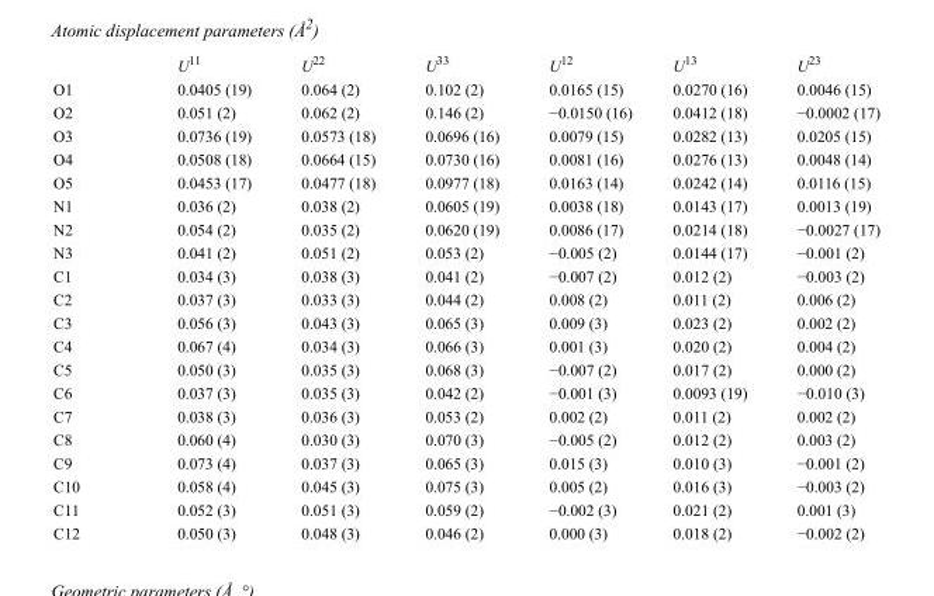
<table><thead><tr><td></td><td>U<sup>11</sup></td><td>U<sup>22</sup></td><td>U<sup>33</sup></td><td>U<sup>12</sup></td><td>U<sup>13</sup></td><td>U<sup>23</sup></td></tr></thead><tbody><tr><td>O1</td><td>0.0405 (19)</td><td>0.064 (2)</td><td>0.102 (2)</td><td>0.0165 (15)</td><td>0.0270 (16)</td><td>0.0046 (15)</td></tr><tr><td>O2</td><td>0.051 (2)</td><td>0.062 (2)</td><td>0.146 (2)</td><td>−0.0150 (16)</td><td>0.0412 (18)</td><td>−0.0002 (17)</td></tr><tr><td>O3</td><td>0.0736 (19)</td><td>0.0573 (18)</td><td>0.0696 (16)</td><td>0.0079 (15)</td><td>0.0282 (13)</td><td>0.0205 (15)</td></tr><tr><td>O4</td><td>0.0508 (18)</td><td>0.0664 (15)</td><td>0.0730 (16)</td><td>0.0081 (16)</td><td>0.0276 (13)</td><td>0.0048 (14)</td></tr><tr><td>O5</td><td>0.0453 (17)</td><td>0.0477 (18)</td><td>0.0977 (18)</td><td>0.0163 (14)</td><td>0.0242 (14)</td><td>0.0116 (15)</td></tr><tr><td>N1</td><td>0.036 (2)</td><td>0.038 (2)</td><td>0.0605 (19)</td><td>0.0038 (18)</td><td>0.0143 (17)</td><td>0.0013 (19)</td></tr><tr><td>N2</td><td>0.054 (2)</td><td>0.035 (2)</td><td>0.0620 (19)</td><td>0.0086 (17)</td><td>0.0214 (18)</td><td>−0.0027 (17)</td></tr><tr><td>N3</td><td>0.041 (2)</td><td>0.051 (2)</td><td>0.053 (2)</td><td>−0.005 (2)</td><td>0.0144 (17)</td><td>−0.001 (2)</td></tr><tr><td>C1</td><td>0.034 (3)</td><td>0.038 (3)</td><td>0.041 (2)</td><td>−0.007 (2)</td><td>0.012 (2)</td><td>−0.003 (2)</td></tr><tr><td>C2</td><td>0.037 (3)</td><td>0.033 (3)</td><td>0.044 (2)</td><td>0.008 (2)</td><td>0.011 (2)</td><td>0.006 (2)</td></tr><tr><td>C3</td><td>0.056 (3)</td><td>0.043 (3)</td><td>0.065 (3)</td><td>0.009 (3)</td><td>0.023 (2)</td><td>0.002 (2)</td></tr><tr><td>C4</td><td>0.067 (4)</td><td>0.034 (3)</td><td>0.066 (3)</td><td>0.001 (3)</td><td>0.020 (2)</td><td>0.004 (2)</td></tr><tr><td>C5</td><td>0.050 (3)</td><td>0.035 (3)</td><td>0.068 (3)</td><td>−0.007 (2)</td><td>0.017 (2)</td><td>0.000 (2)</td></tr><tr><td>C6</td><td>0.037 (3)</td><td>0.035 (3)</td><td>0.042 (2)</td><td>−0.001 (3)</td><td>0.0093 (19)</td><td>−0.010 (3)</td></tr><tr><td>C7</td><td>0.038 (3)</td><td>0.036 (3)</td><td>0.053 (2)</td><td>0.002 (2)</td><td>0.011 (2)</td><td>0.002 (2)</td></tr><tr><td>C8</td><td>0.060 (4)</td><td>0.030 (3)</td><td>0.070 (3)</td><td>−0.005 (2)</td><td>0.012 (2)</td><td>0.003 (2)</td></tr><tr><td>C9</td><td>0.073 (4)</td><td>0.037 (3)</td><td>0.065 (3)</td><td>0.015 (3)</td><td>0.010 (3)</td><td>−0.001 (2)</td></tr><tr><td>C10</td><td>0.058 (4)</td><td>0.045 (3)</td><td>0.075 (3)</td><td>0.005 (2)</td><td>0.016 (3)</td><td>−0.003 (2)</td></tr><tr><td>C11</td><td>0.052 (3)</td><td>0.051 (3)</td><td>0.059 (2)</td><td>−0.002 (3)</td><td>0.021 (2)</td><td>0.001 (3)</td></tr><tr><td>C12</td><td>0.050 (3)</td><td>0.048 (3)</td><td>0.046 (2)</td><td>0.000 (3)</td><td>0.018 (2)</td><td>−0.002 (2)</td></tr></tbody></table>